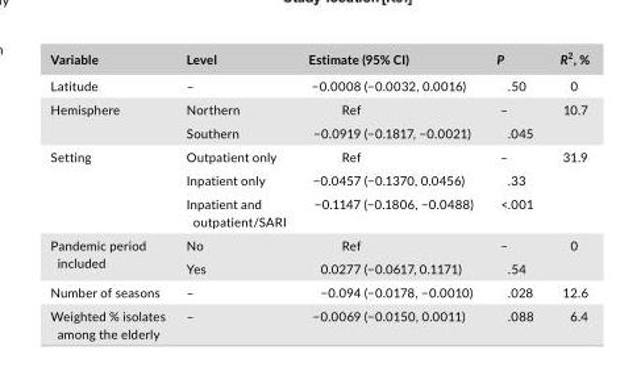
<table><thead><tr><td>Variable</td><td>Level</td><td>Estimate (95% CI)</td><td>P</td><td>R<sup>2</sup>, %</td></tr></thead><tbody><tr><td>Latitude</td><td>–</td><td>−0.0008 (−0.0032, 0.0016)</td><td>.50</td><td>0</td></tr><tr><td rowspan="2">Hemisphere</td><td>Northern</td><td>Ref</td><td>–</td><td rowspan="2">10.7</td></tr><tr><td>Southern</td><td>−0.0919 (−0.1817, −0.0021)</td><td>.045</td></tr><tr><td rowspan="3">Setting</td><td>Outpatient only</td><td>Ref</td><td>–</td><td rowspan="3">31.9</td></tr><tr><td>Inpatient only</td><td>−0.0457 (−0.1370, 0.0456)</td><td>.33</td></tr><tr><td>Inpatient and outpatient/SARI</td><td>−0.1147 (−0.1806, −0.0488)</td><td>&lt;.001</td></tr><tr><td rowspan="2">Pandemic period included</td><td>No</td><td>Ref</td><td>–</td><td rowspan="2">0</td></tr><tr><td>Yes</td><td>0.0277 (−0.0617, 0.1171)</td><td>.54</td></tr><tr><td>Number of seasons</td><td>–</td><td>−0.094 (−0.0178, −0.0010)</td><td>.028</td><td>12.6</td></tr><tr><td>Weighted % isolates among the elderly</td><td>–</td><td>−0.0069 (−0.0150, 0.0011)</td><td>.088</td><td>6.4</td></tr></tbody></table>